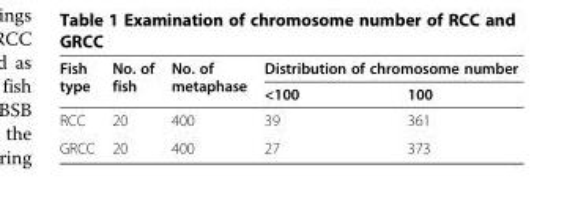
<table><thead><tr><td rowspan="2">Fish type</td><td rowspan="2">No. of fish</td><td rowspan="2">No. of metaphase</td><td colspan="2">Distribution of chromosome number</td></tr><tr><td>&lt;100</td><td>100</td></tr></thead><tbody><tr><td>RCC</td><td>20</td><td>400</td><td>39</td><td>361</td></tr><tr><td>GRCC</td><td>20</td><td>400</td><td>27</td><td>373</td></tr></tbody></table>